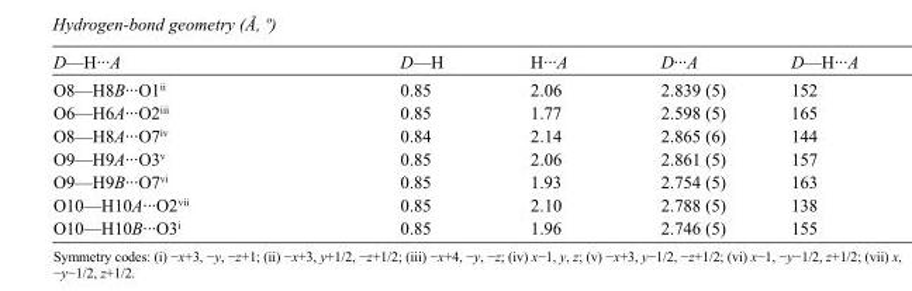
<table><tbody><tr><td>D—H···A</td><td>D—H</td><td>H···A</td><td>D···A</td><td>D—H···A</td></tr><tr><td>O8—H8B···O1<sup>ii</sup></td><td>0.85</td><td>2.06</td><td>2.839 (5)</td><td>152</td></tr><tr><td>O6—H6A···O2<sup>iii</sup></td><td>0.85</td><td>1.77</td><td>2.598 (5)</td><td>165</td></tr><tr><td>O8—H8A···O7<sup>iv</sup></td><td>0.84</td><td>2.14</td><td>2.865 (6)</td><td>144</td></tr><tr><td>O9—H9A···O3<sup>v</sup></td><td>0.85</td><td>2.06</td><td>2.861 (5)</td><td>157</td></tr><tr><td>O9—H9B···O7<sup>vi</sup></td><td>0.85</td><td>1.93</td><td>2.754 (5)</td><td>163</td></tr><tr><td>O10—H10A···O2<sup>vii</sup></td><td>0.85</td><td>2.10</td><td>2.788 (5)</td><td>138</td></tr><tr><td>O10—H10B···O3<sup>i</sup></td><td>0.85</td><td>1.96</td><td>2.746 (5)</td><td>155</td></tr></tbody></table>